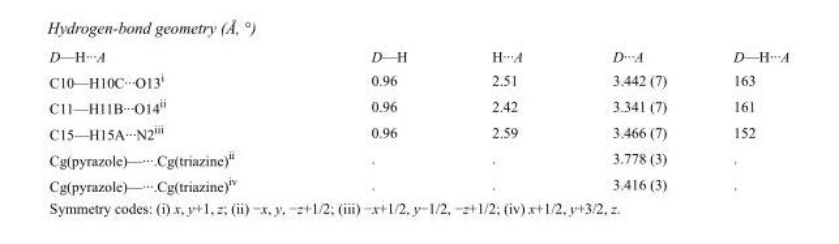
<table><tbody><tr><td>D—H···A</td><td>D—H</td><td>H···A</td><td>D···A</td><td>D—H···A</td></tr><tr><td>C10—H10C···O13<sup>i</sup></td><td>0.96</td><td>2.51</td><td>3.442 (7)</td><td>163</td></tr><tr><td>C11—H11B···O14<sup>ii</sup></td><td>0.96</td><td>2.42</td><td>3.341 (7)</td><td>161</td></tr><tr><td>C15—H15A···N2<sup>iii</sup></td><td>0.96</td><td>2.59</td><td>3.466 (7)</td><td>152</td></tr><tr><td>Cg(pyrazole)—···.Cg(triazine)<sup>ii</sup></td><td>.</td><td>.</td><td>3.778 (3)</td><td>.</td></tr><tr><td>Cg(pyrazole)—···.Cg(triazine)<sup>iv</sup></td><td>.</td><td>.</td><td>3.416 (3)</td><td>.</td></tr></tbody></table>